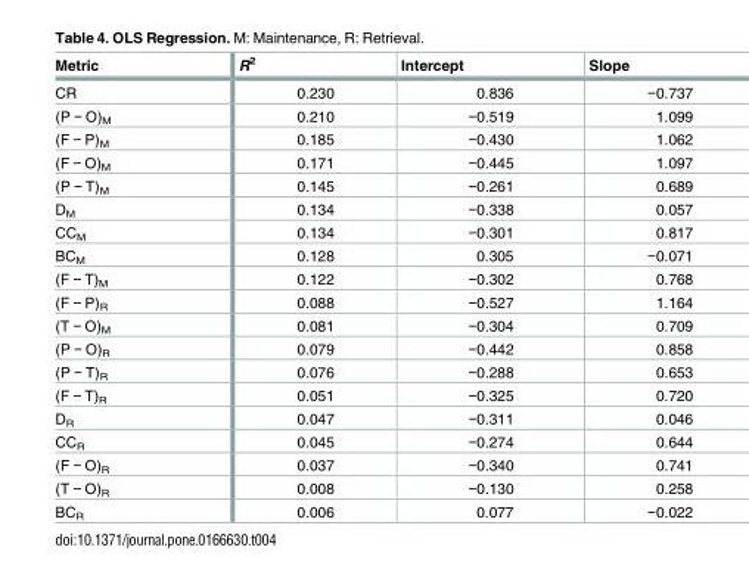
<table><thead><tr><td>Metric</td><td>R<sup>2</sup></td><td>Intercept</td><td>Slope</td></tr></thead><tbody><tr><td>CR</td><td>0.230</td><td>0.836</td><td>−0.737</td></tr><tr><td>(P − O)<sub>M</sub></td><td>0.210</td><td>−0.519</td><td>1.099</td></tr><tr><td>(F − P)<sub>M</sub></td><td>0.185</td><td>−0.430</td><td>1.062</td></tr><tr><td>(F − O)<sub>M</sub></td><td>0.171</td><td>−0.445</td><td>1.097</td></tr><tr><td>(P − T)<sub>M</sub></td><td>0.145</td><td>−0.261</td><td>0.689</td></tr><tr><td>D<sub>M</sub></td><td>0.134</td><td>−0.338</td><td>0.057</td></tr><tr><td>CC<sub>M</sub></td><td>0.134</td><td>−0.301</td><td>0.817</td></tr><tr><td>BC<sub>M</sub></td><td>0.128</td><td>0.305</td><td>−0.071</td></tr><tr><td>(F − T)<sub>M</sub></td><td>0.122</td><td>−0.302</td><td>0.768</td></tr><tr><td>(F − P)<sub>R</sub></td><td>0.088</td><td>−0.527</td><td>1.164</td></tr><tr><td>(T − O)<sub>M</sub></td><td>0.081</td><td>−0.304</td><td>0.709</td></tr><tr><td>(P − O)<sub>R</sub></td><td>0.079</td><td>−0.442</td><td>0.858</td></tr><tr><td>(P − T)<sub>R</sub></td><td>0.076</td><td>−0.288</td><td>0.653</td></tr><tr><td>(F − T)<sub>R</sub></td><td>0.051</td><td>−0.325</td><td>0.720</td></tr><tr><td>D<sub>R</sub></td><td>0.047</td><td>−0.311</td><td>0.046</td></tr><tr><td>CC<sub>R</sub></td><td>0.045</td><td>−0.274</td><td>0.644</td></tr><tr><td>(F − O)<sub>R</sub></td><td>0.037</td><td>−0.340</td><td>0.741</td></tr><tr><td>(T − O)<sub>R</sub></td><td>0.008</td><td>−0.130</td><td>0.258</td></tr><tr><td>BC<sub>R</sub></td><td>0.006</td><td>0.077</td><td>−0.022</td></tr></tbody></table>